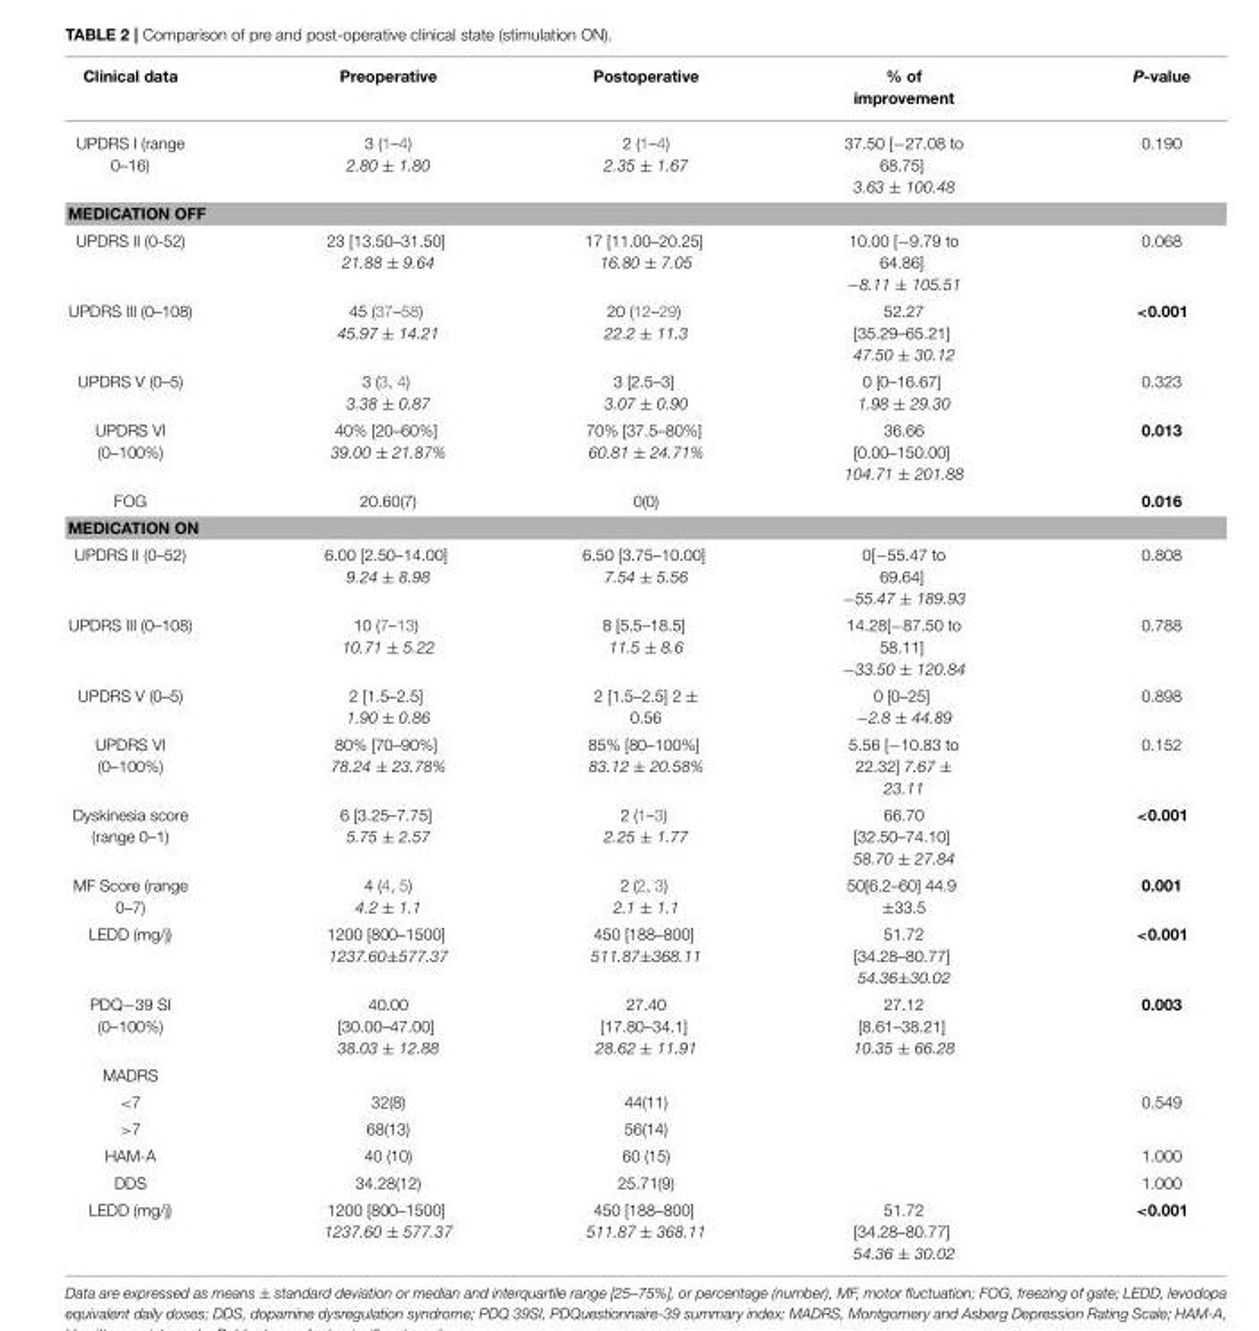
<table><thead><tr><td>Clinical data</td><td>Preoperative</td><td>Postoperative</td><td>% of improvement</td><td>P-value</td></tr></thead><tbody><tr><td>UPDRS I (range 0–16)</td><td>3 (1–4) 2.80 ± 1.80</td><td>2 (1–4) 2.35 ± 1.67</td><td>37.50 [−27.08 to 68.75] 3.63 ± 100.48</td><td>0.190</td></tr><tr><td colspan="5">MEDICATION OFF</td></tr><tr><td>UPDRS II (0-52)</td><td>23 [13.50–31.50] 21.88 ± 9.64</td><td>17 [11.00–20.25] 16.80 ± 7.05</td><td>10.00 [−9.79 to 64.86] −8.11 ± 105.51</td><td>0.068</td></tr><tr><td>UPDRS III (0–108)</td><td>45 (37–58) 45.97 ± 14.21</td><td>20 (12–29) 22.2 ± 11.3</td><td>52.27 [35.29–65.21] 47.50 ± 30.12</td><td>&lt;0.001</td></tr><tr><td>UPDRS V (0–5)</td><td>3 (3, 4) 3.38 ± 0.87</td><td>3 [2.5–3] 3.07 ± 0.90</td><td>0 [0–16.67] 1.98 ± 29.30</td><td>0.323</td></tr><tr><td>UPDRS VI (0–100%)</td><td>40% [20–60%] 39.00 ± 21.87%</td><td>70% [37.5–80%] 60.81 ± 24.71%</td><td>36.66 [0.00–150.00] 104.71 ± 201.88</td><td>0.013</td></tr><tr><td>FOG</td><td>20.60(7)</td><td>0(0)</td><td></td><td>0.016</td></tr><tr><td colspan="5">MEDICATION ON</td></tr><tr><td>UPDRS II (0–52)</td><td>6.00 [2.50–14.00] 9.24 ± 8.98</td><td>6.50 [3.75–10.00] 7.54 ± 5.56</td><td>0[−55.47 to 69.64] −55.47 ± 189.93</td><td>0.808</td></tr><tr><td>UPDRS III (0–108)</td><td>10 (7–13) 10.71 ± 5.22</td><td>8 [5.5–18.5] 11.5 ± 8.6</td><td>14.28[−87.50 to 58.11] −33.50 ± 120.84</td><td>0.788</td></tr><tr><td>UPDRS V (0–5)</td><td>2 [1.5–2.5] 1.90 ± 0.86</td><td>2 [1.5–2.5] 2 ± 0.56</td><td>0 [0–25] −2.8 ± 44.89</td><td>0.898</td></tr><tr><td>UPDRS VI (0–100%)</td><td>80% [70–90%] 78.24 ± 23.78%</td><td>85% [80–100%] 83.12 ± 20.58%</td><td>5.56 [−10.83 to 22.32] 7.67 ± 23.11</td><td>0.152</td></tr><tr><td>Dyskinesia score (range 0–1)</td><td>6 [3.25–7.75] 5.75 ± 2.57</td><td>2 (1–3) 2.25 ± 1.77</td><td>66.70 [32.50–74.10] 58.70 ± 27.84</td><td>&lt;0.001</td></tr><tr><td>MF Score (range 0–7)</td><td>4 (4, 5) 4.2 ± 1.1</td><td>2 (2, 3) 2.1 ± 1.1</td><td>50[6.2–60] 44.9 ±33.5</td><td>0.001</td></tr><tr><td>LEDD (mg/j)</td><td>1200 [800–1500] 1237.60±577.37</td><td>450 [188–800] 511.87±368.11</td><td>51.72 [34.28–80.77] 54.36±30.02</td><td>&lt;0.001</td></tr><tr><td>PDQ−39 SI (0–100%)</td><td>40.00 [30.00–47.00] 38.03 ± 12.88</td><td>27.40 [17.80–34.1] 28.62 ± 11.91</td><td>27.12 [8.61–38.21] 10.35 ± 66.28</td><td>0.003</td></tr><tr><td colspan="5">MADRS</td></tr><tr><td>&lt;7</td><td>32(8)</td><td>44(11)</td><td></td><td>0.549</td></tr><tr><td>&gt;7</td><td>68(13)</td><td>56(14)</td><td></td><td></td></tr><tr><td>HAM-A</td><td>40 (10)</td><td>60 (15)</td><td></td><td>1.000</td></tr><tr><td>DDS</td><td>34.28(12)</td><td>25.71(9)</td><td></td><td>1.000</td></tr><tr><td>LEDD (mg/j)</td><td>1200 [800–1500] 1237.60 ± 577.37</td><td>450 [188–800] 511.87 ± 368.11</td><td>51.72 [34.28–80.77] 54.36 ± 30.02</td><td>&lt;0.001</td></tr></tbody></table>